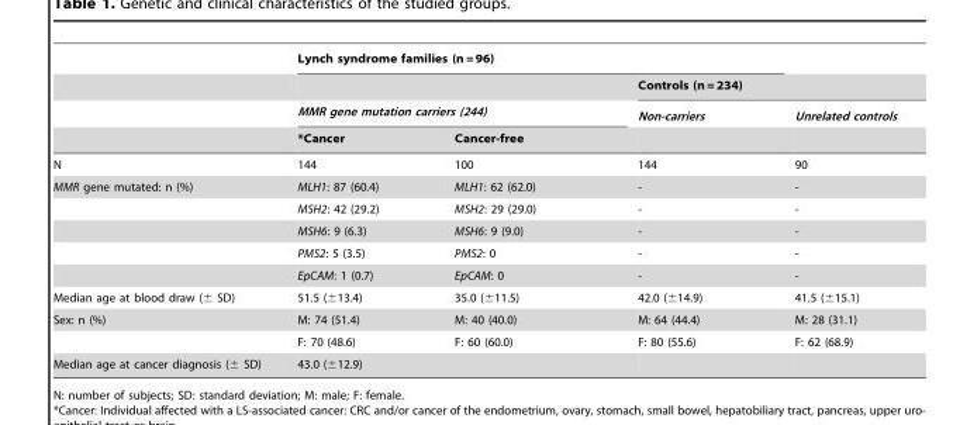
<table><thead><tr><td rowspan="4"></td><td colspan="3">Lynch syndrome families (n = 96)</td><td></td></tr><tr><td></td><td></td><td colspan="2">Controls (n = 234)</td></tr><tr><td colspan="2">MMR gene mutation carriers (244)</td><td rowspan="2">Non-carriers</td><td rowspan="2">Unrelated controls</td></tr><tr><td>*Cancer</td><td>Cancer-free</td></tr></thead><tbody><tr><td>N</td><td>144</td><td>100</td><td>144</td><td>90</td></tr><tr><td rowspan="5">MMR gene mutated: n (%)</td><td>MLH1: 87 (60.4)</td><td>MLH1: 62 (62.0)</td><td>-</td><td>-</td></tr><tr><td>MSH2: 42 (29.2)</td><td>MSH2: 29 (29.0)</td><td>-</td><td>-</td></tr><tr><td>MSH6: 9 (6.3)</td><td>MSH6: 9 (9.0)</td><td>-</td><td>-</td></tr><tr><td>PMS2: 5 (3.5)</td><td>PMS2: 0</td><td>-</td><td>-</td></tr><tr><td>EpCAM: 1 (0.7)</td><td>EpCAM: 0</td><td>-</td><td>-</td></tr><tr><td>Median age at blood draw (± SD)</td><td>51.5 (±13.4)</td><td>35.0 (±11.5)</td><td>42.0 (±14.9)</td><td>41.5 (±15.1)</td></tr><tr><td rowspan="2">Sex: n (%)</td><td>M: 74 (51.4)</td><td>M: 40 (40.0)</td><td>M: 64 (44.4)</td><td>M: 28 (31.1)</td></tr><tr><td>F: 70 (48.6)</td><td>F: 60 (60.0)</td><td>F: 80 (55.6)</td><td>F: 62 (68.9)</td></tr><tr><td>Median age at cancer diagnosis (± SD)</td><td>43.0 (±12.9)</td><td></td><td></td><td></td></tr></tbody></table>